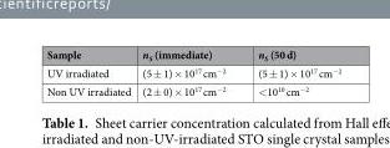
<table><thead><tr><td>Sample</td><td>n<sub>S</sub> (immediate)</td><td>n<sub>S</sub> (50 d)</td></tr></thead><tbody><tr><td>UV irradiated</td><td>(5 ± 1) × 10<sup>17</sup> cm<sup>−2</sup></td><td>(5 ± 1) × 10<sup>17</sup> cm<sup>−2</sup></td></tr><tr><td>Non UV irradiated</td><td>(2 ± 0) × 10<sup>17</sup> cm<sup>−2</sup></td><td>&lt;10<sup>10</sup> cm<sup>−2</sup></td></tr></tbody></table>